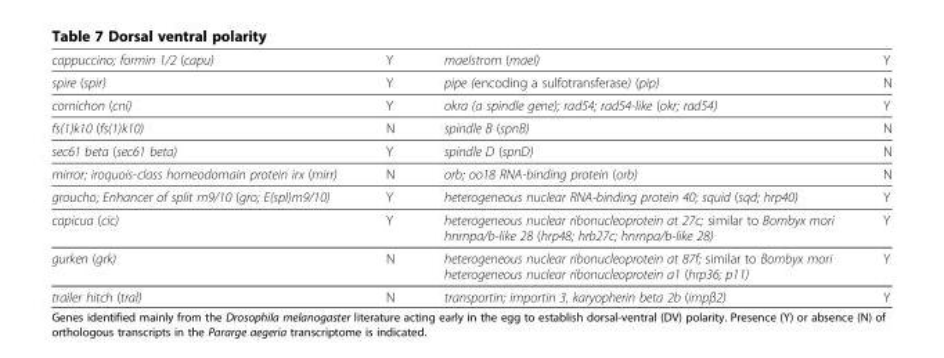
<table><tbody><tr><td>cappuccino; formin 1/2 (capu)</td><td>Y</td><td>maelstrom (mael)</td><td>Y</td></tr><tr><td>spire (spir)</td><td>Y</td><td>pipe (encoding a sulfotransferase) (pip)</td><td>N</td></tr><tr><td>cornichon (cni)</td><td>Y</td><td>okra (a spindle gene); rad54; rad54-like (okr; rad54)</td><td>Y</td></tr><tr><td>fs(1)k10 (fs(1)k10)</td><td>N</td><td>spindle B (spnB)</td><td>N</td></tr><tr><td>sec61 beta (sec61 beta)</td><td>Y</td><td>spindle D (spnD)</td><td>N</td></tr><tr><td>mirror; iroquois-class homeodomain protein irx (mirr)</td><td>N</td><td>orb; oo18 RNA-binding protein (orb)</td><td>N</td></tr><tr><td>groucho; Enhancer of split m9/10 (gro; E(spl)m9/10)</td><td>Y</td><td>heterogeneous nuclear RNA-binding protein 40; squid (sqd; hrp40)</td><td>Y</td></tr><tr><td>capicua (cic)</td><td>Y</td><td>heterogeneous nuclear ribonucleoprotein at 27c; similar to Bombyx mori hnrnpa/b-like 28 (hrp48; hrb27c; hnrnpa/b-like 28)</td><td>Y</td></tr><tr><td>gurken (grk)</td><td>N</td><td>heterogeneous nuclear ribonucleoprotein at 87f; similar to Bombyx mori heterogeneous nuclear ribonucleoprotein a1 (hrp36; p11)</td><td>Y</td></tr><tr><td>trailer hitch (tral)</td><td>N</td><td>transportin; importin 3, karyopherin beta 2b (impβ2)</td><td>Y</td></tr></tbody></table>